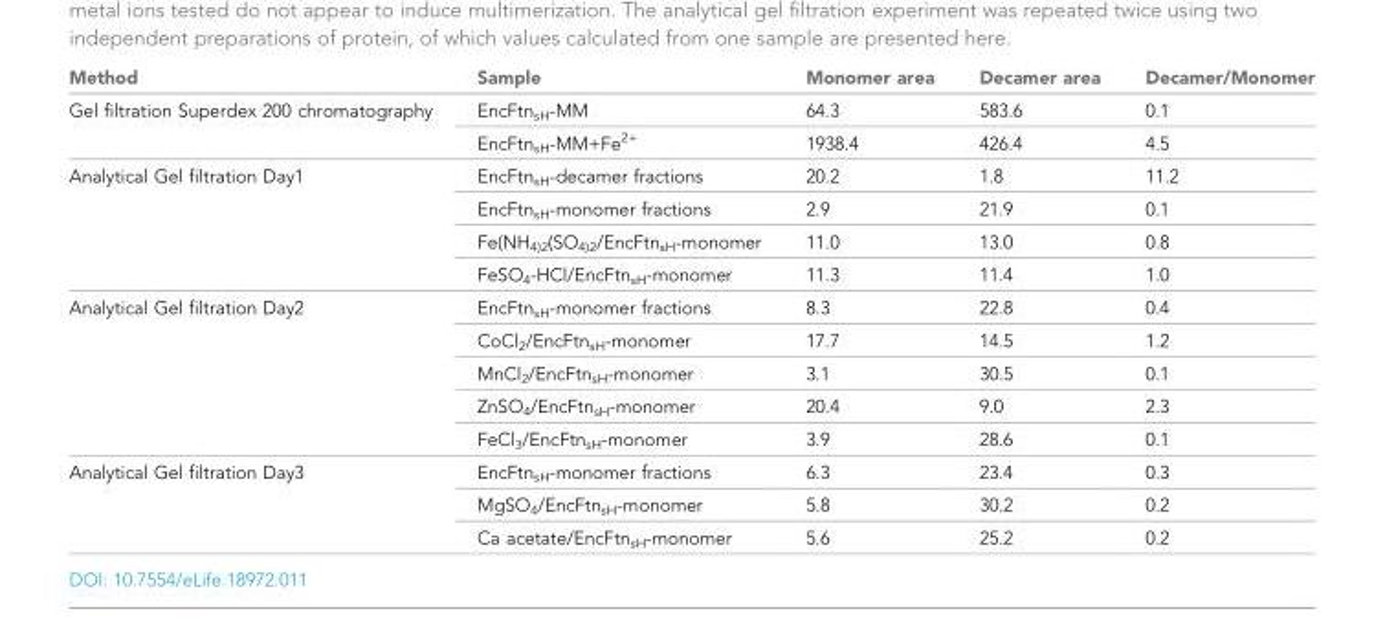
<table><thead><tr><td>Method</td><td>Sample</td><td>Monomer area</td><td>Decamer area</td><td>Decamer/Monomer</td></tr></thead><tbody><tr><td rowspan="2">Gel filtration Superdex 200 chromatography</td><td>EncFtn<sub>sH</sub>-MM</td><td>64.3</td><td>583.6</td><td>0.1</td></tr><tr><td>EncFtn<sub>sH</sub>-MM+Fe<sup>2+</sup></td><td>1938.4</td><td>426.4</td><td>4.5</td></tr><tr><td rowspan="4">Analytical Gel filtration Day1</td><td>EncFtn<sub>sH</sub>-decamer fractions</td><td>20.2</td><td>1.8</td><td>11.2</td></tr><tr><td>EncFtn<sub>sH</sub>-monomer fractions</td><td>2.9</td><td>21.9</td><td>0.1</td></tr><tr><td>Fe(NH<sub>4)2</sub>(SO<sub>4)2</sub>/EncFtn<sub>sH</sub>-monomer</td><td>11.0</td><td>13.0</td><td>0.8</td></tr><tr><td>FeSO<sub>4</sub>-HCl/EncFtn<sub>sH</sub>-monomer</td><td>11.3</td><td>11.4</td><td>1.0</td></tr><tr><td rowspan="5">Analytical Gel filtration Day2</td><td>EncFtn<sub>sH</sub>-monomer fractions</td><td>8.3</td><td>22.8</td><td>0.4</td></tr><tr><td>CoCl<sub>2</sub>/EncFtn<sub>sH</sub>-monomer</td><td>17.7</td><td>14.5</td><td>1.2</td></tr><tr><td>MnCl<sub>2</sub>/EncFtn<sub>sH</sub>-monomer</td><td>3.1</td><td>30.5</td><td>0.1</td></tr><tr><td>ZnSO<sub>4</sub>/EncFtn<sub>sH</sub>-monomer</td><td>20.4</td><td>9.0</td><td>2.3</td></tr><tr><td>FeCl<sub>3</sub>/EncFtn<sub>sH</sub>-monomer</td><td>3.9</td><td>28.6</td><td>0.1</td></tr><tr><td rowspan="3">Analytical Gel filtration Day3</td><td>EncFtn<sub>sH</sub>-monomer fractions</td><td>6.3</td><td>23.4</td><td>0.3</td></tr><tr><td>MgSO<sub>4</sub>/EncFtn<sub>sH</sub>-monomer</td><td>5.8</td><td>30.2</td><td>0.2</td></tr><tr><td>Ca acetate/EncFtn<sub>sH</sub>-monomer</td><td>5.6</td><td>25.2</td><td>0.2</td></tr></tbody></table>